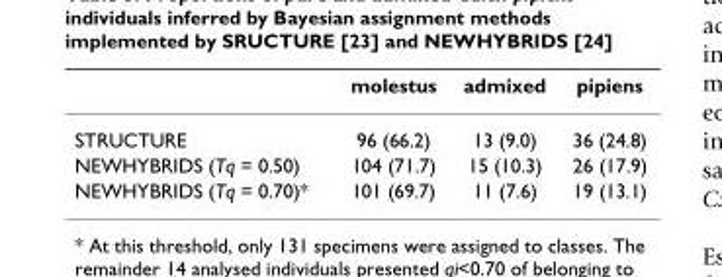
<table><thead><tr><td></td><td>molestus</td><td>admixed</td><td>pipiens</td></tr></thead><tbody><tr><td>STRUCTURE</td><td>96 (66.2)</td><td>13 (9.0)</td><td>36 (24.8)</td></tr><tr><td>NEWHYBRIDS (Tq = 0.50)</td><td>104 (71.7)</td><td>15 (10.3)</td><td>26 (17.9)</td></tr><tr><td>NEWHYBRIDS (Tq = 0.70)*</td><td>101 (69.7)</td><td>11 (7.6)</td><td>19 (13.1)</td></tr></tbody></table>